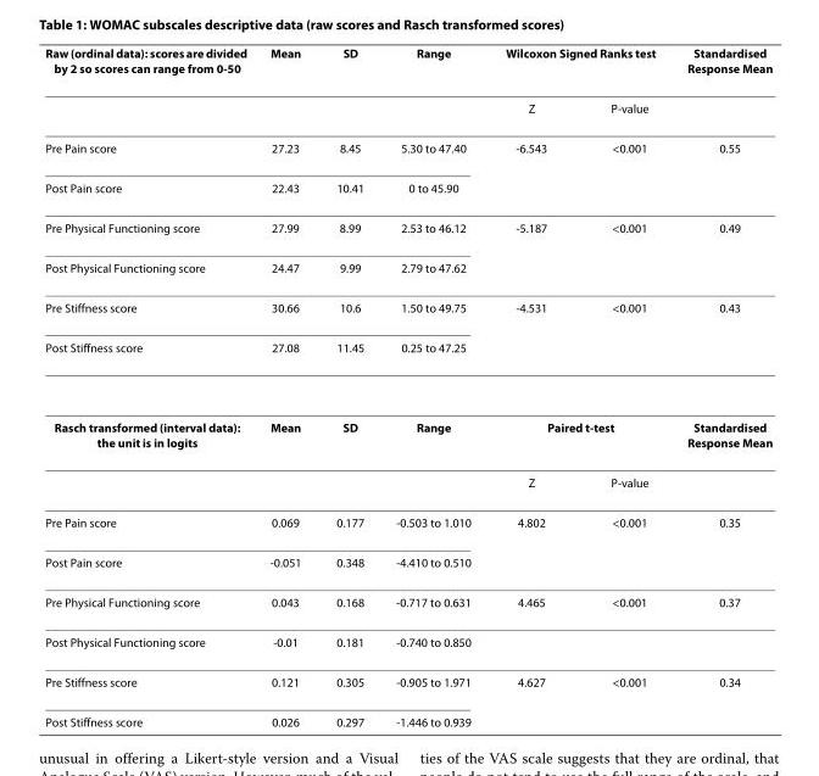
<table><thead><tr><td rowspan="2">Raw (ordinal data): scores are divided by 2 so scores can range from 0-50</td><td rowspan="2">Mean</td><td rowspan="2">SD</td><td rowspan="2">Range</td><td colspan="2">Wilcoxon Signed Ranks test</td><td rowspan="2">Standardised Response Mean</td></tr><tr><td>Z</td><td>P-value</td></tr></thead><tbody><tr><td>Pre Pain score</td><td>27.23</td><td>8.45</td><td>5.30 to 47.40</td><td>-6.543</td><td>&lt;0.001</td><td>0.55</td></tr><tr><td>Post Pain score</td><td>22.43</td><td>10.41</td><td>0 to 45.90</td><td></td><td></td><td></td></tr><tr><td>Pre Physical Functioning score</td><td>27.99</td><td>8.99</td><td>2.53 to 46.12</td><td>-5.187</td><td>&lt;0.001</td><td>0.49</td></tr><tr><td>Post Physical Functioning score</td><td>24.47</td><td>9.99</td><td>2.79 to 47.62</td><td></td><td></td><td></td></tr><tr><td>Pre Stiffness score</td><td>30.66</td><td>10.6</td><td>1.50 to 49.75</td><td>-4.531</td><td>&lt;0.001</td><td>0.43</td></tr><tr><td>Post Stiffness score</td><td>27.08</td><td>11.45</td><td>0.25 to 47.25</td><td></td><td></td><td></td></tr><tr><td rowspan="2">Rasch transformed (interval data): the unit is in logits</td><td>Mean</td><td>SD</td><td>Range</td><td colspan="2">Paired t-test</td><td>Standardised Response Mean</td></tr><tr><td></td><td></td><td></td><td>Z</td><td>P-value</td><td></td></tr><tr><td>Pre Pain score</td><td>0.069</td><td>0.177</td><td>-0.503 to 1.010</td><td>4.802</td><td>&lt;0.001</td><td>0.35</td></tr><tr><td>Post Pain score</td><td>-0.051</td><td>0.348</td><td>-4.410 to 0.510</td><td></td><td></td><td></td></tr><tr><td>Pre Physical Functioning score</td><td>0.043</td><td>0.168</td><td>-0.717 to 0.631</td><td>4.465</td><td>&lt;0.001</td><td>0.37</td></tr><tr><td>Post Physical Functioning score</td><td>-0.01</td><td>0.181</td><td>-0.740 to 0.850</td><td></td><td></td><td></td></tr><tr><td>Pre Stiffness score</td><td>0.121</td><td>0.305</td><td>-0.905 to 1.971</td><td>4.627</td><td>&lt;0.001</td><td>0.34</td></tr><tr><td>Post Stiffness score</td><td>0.026</td><td>0.297</td><td>-1.446 to 0.939</td><td></td><td></td><td></td></tr></tbody></table>